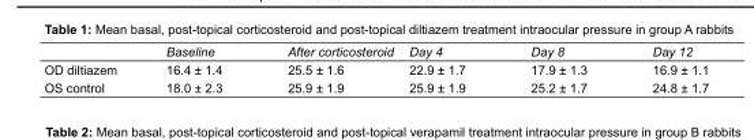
<table><thead><tr><td></td><td>Baseline</td><td>After corticosteroid</td><td>Day 4</td><td>Day 8</td><td>Day 12</td></tr></thead><tbody><tr><td>OD diltiazem</td><td>16.4 ± 1.4</td><td>25.5 ± 1.6</td><td>22.9 ± 1.7</td><td>17.9 ± 1.3</td><td>16.9 ± 1.1</td></tr><tr><td>OS control</td><td>18.0 ± 2.3</td><td>25.9 ± 1.9</td><td>25.9 ± 1.9</td><td>25.2 ± 1.7</td><td>24.8 ± 1.7</td></tr></tbody></table>